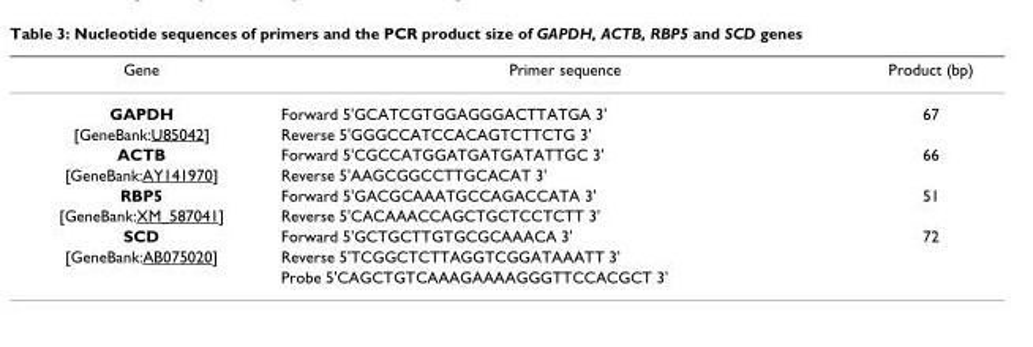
<table><thead><tr><td>Gene</td><td>Primer sequence</td><td>Product (bp)</td></tr></thead><tbody><tr><td>GAPDH</td><td>Forward 5&#x27;GCATCGTGGAGGGACTTATGA 3&#x27;</td><td>67</td></tr><tr><td>[GeneBank:U85042]</td><td>Reverse 5&#x27;GGGCCATCCACAGTCTTCTG 3&#x27;</td><td></td></tr><tr><td>ACTB</td><td>Forward 5&#x27;CGCCATGGATGATGATATTGC 3&#x27;</td><td>66</td></tr><tr><td>[GeneBank:AY141970]</td><td>Reverse 5&#x27;AAGCGGCCTTGCACAT 3&#x27;</td><td></td></tr><tr><td>RBP5</td><td>Forward 5&#x27;GACGCAAATGCCAGACCATA 3&#x27;</td><td>51</td></tr><tr><td>[GeneBank:XM_587041]</td><td>Reverse 5&#x27;CACAAACCAGCTGCTCCTCTT 3&#x27;</td><td></td></tr><tr><td>SCD</td><td>Forward 5&#x27;GCTGCTTGTGCGCAAACA 3&#x27;</td><td>72</td></tr><tr><td rowspan="2">[GeneBank:AB075020]</td><td>Reverse 5&#x27;TCGGCTCTTAGGTCGGATAAATT 3&#x27;</td><td></td></tr><tr><td>Probe 5&#x27;CAGCTGTCAAAGAAAAGGGTTCCACGCT 3&#x27;</td><td></td></tr></tbody></table>